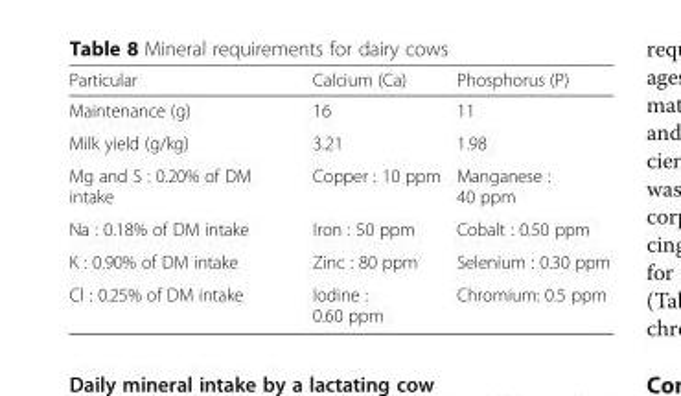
<table><thead><tr><td>Particular</td><td>Calcium (Ca)</td><td>Phosphorus (P)</td></tr></thead><tbody><tr><td>Maintenance (g)</td><td>16</td><td>11</td></tr><tr><td>Milk yield (g/kg)</td><td>3.21</td><td>1.98</td></tr><tr><td>Mg and S : 0.20% of DM intake</td><td>Copper : 10 ppm</td><td>Manganese : 40 ppm</td></tr><tr><td>Na : 0.18% of DM intake</td><td>Iron : 50 ppm</td><td>Cobalt : 0.50 ppm</td></tr><tr><td>K : 0.90% of DM intake</td><td>Zinc : 80 ppm</td><td>Selenium : 0.30 ppm</td></tr><tr><td>Cl : 0.25% of DM intake</td><td>Iodine : 0.60 ppm</td><td>Chromium: 0.5 ppm</td></tr></tbody></table>